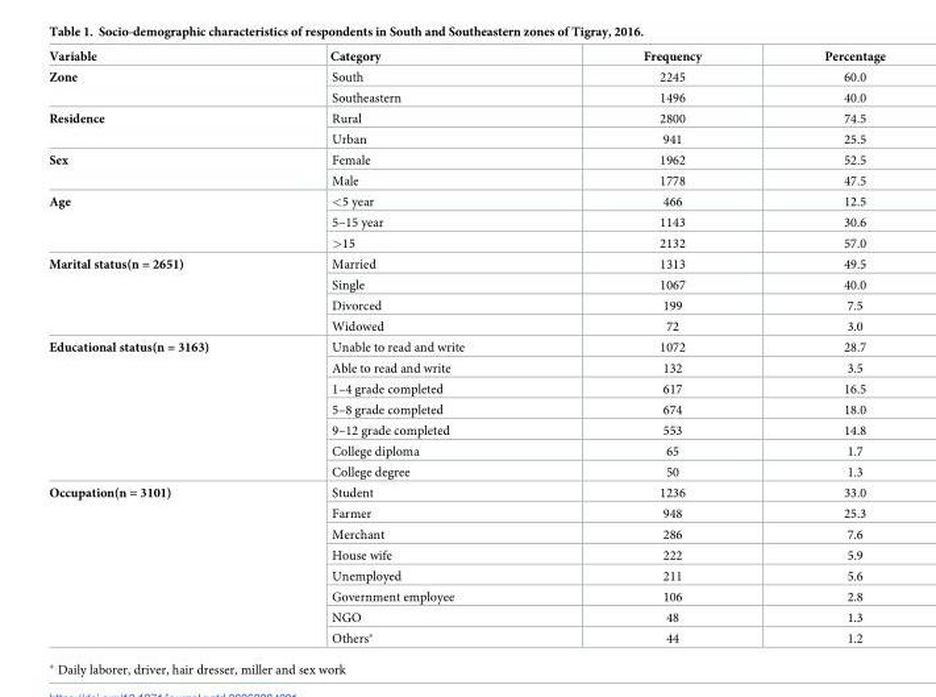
<table><thead><tr><td>Variable</td><td>Category</td><td>Frequency</td><td>Percentage</td></tr></thead><tbody><tr><td rowspan="2">Zone</td><td>South</td><td>2245</td><td>60.0</td></tr><tr><td>Southeastern</td><td>1496</td><td>40.0</td></tr><tr><td rowspan="2">Residence</td><td>Rural</td><td>2800</td><td>74.5</td></tr><tr><td>Urban</td><td>941</td><td>25.5</td></tr><tr><td rowspan="2">Sex</td><td>Female</td><td>1962</td><td>52.5</td></tr><tr><td>Male</td><td>1778</td><td>47.5</td></tr><tr><td rowspan="3">Age</td><td>&lt;5 year</td><td>466</td><td>12.5</td></tr><tr><td>5–15 year</td><td>1143</td><td>30.6</td></tr><tr><td>&gt;15</td><td>2132</td><td>57.0</td></tr><tr><td rowspan="4">Marital status(n = 2651)</td><td>Married</td><td>1313</td><td>49.5</td></tr><tr><td>Single</td><td>1067</td><td>40.0</td></tr><tr><td>Divorced</td><td>199</td><td>7.5</td></tr><tr><td>Widowed</td><td>72</td><td>3.0</td></tr><tr><td rowspan="7">Educational status(n = 3163)</td><td>Unable to read and write</td><td>1072</td><td>28.7</td></tr><tr><td>Able to read and write</td><td>132</td><td>3.5</td></tr><tr><td>1–4 grade completed</td><td>617</td><td>16.5</td></tr><tr><td>5–8 grade completed</td><td>674</td><td>18.0</td></tr><tr><td>9–12 grade completed</td><td>553</td><td>14.8</td></tr><tr><td>College diploma</td><td>65</td><td>1.7</td></tr><tr><td>College degree</td><td>50</td><td>1.3</td></tr><tr><td rowspan="8">Occupation(n = 3101)</td><td>Student</td><td>1236</td><td>33.0</td></tr><tr><td>Farmer</td><td>948</td><td>25.3</td></tr><tr><td>Merchant</td><td>286</td><td>7.6</td></tr><tr><td>House wife</td><td>222</td><td>5.9</td></tr><tr><td>Unemployed</td><td>211</td><td>5.6</td></tr><tr><td>Government employee</td><td>106</td><td>2.8</td></tr><tr><td>NGO</td><td>48</td><td>1.3</td></tr><tr><td>Others*</td><td>44</td><td>1.2</td></tr></tbody></table>